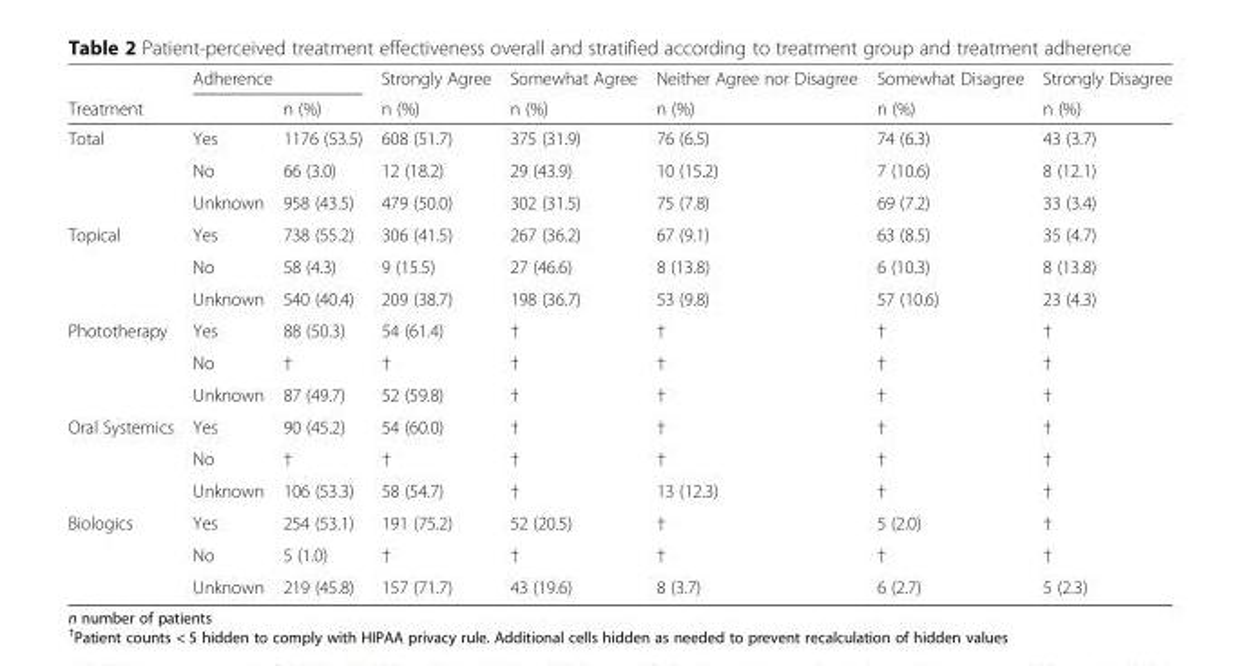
<table><thead><tr><td rowspan="2">Treatment</td><td colspan="2">Adherence</td><td rowspan="2">Strongly Agree n (%)</td><td rowspan="2">Somewhat Agree n (%)</td><td rowspan="2">Neither Agree nor Disagree n (%)</td><td rowspan="2">Somewhat Disagree n (%)</td><td rowspan="2">Strongly Disagree n (%)</td></tr><tr><td></td><td>n (%)</td></tr></thead><tbody><tr><td rowspan="3">Total</td><td>Yes</td><td>1176 (53.5)</td><td>608 (51.7)</td><td>375 (31.9)</td><td>76 (6.5)</td><td>74 (6.3)</td><td>43 (3.7)</td></tr><tr><td>No</td><td>66 (3.0)</td><td>12 (18.2)</td><td>29 (43.9)</td><td>10 (15.2)</td><td>7 (10.6)</td><td>8 (12.1)</td></tr><tr><td>Unknown</td><td>958 (43.5)</td><td>479 (50.0)</td><td>302 (31.5)</td><td>75 (7.8)</td><td>69 (7.2)</td><td>33 (3.4)</td></tr><tr><td rowspan="3">Topical</td><td>Yes</td><td>738 (55.2)</td><td>306 (41.5)</td><td>267 (36.2)</td><td>67 (9.1)</td><td>63 (8.5)</td><td>35 (4.7)</td></tr><tr><td>No</td><td>58 (4.3)</td><td>9 (15.5)</td><td>27 (46.6)</td><td>8 (13.8)</td><td>6 (10.3)</td><td>8 (13.8)</td></tr><tr><td>Unknown</td><td>540 (40.4)</td><td>209 (38.7)</td><td>198 (36.7)</td><td>53 (9.8)</td><td>57 (10.6)</td><td>23 (4.3)</td></tr><tr><td rowspan="3">Phototherapy</td><td>Yes</td><td>88 (50.3)</td><td>54 (61.4)</td><td>†</td><td>†</td><td>†</td><td>†</td></tr><tr><td>No</td><td>†</td><td>†</td><td>†</td><td>†</td><td>†</td><td>†</td></tr><tr><td>Unknown</td><td>87 (49.7)</td><td>52 (59.8)</td><td>†</td><td>†</td><td>†</td><td>†</td></tr><tr><td rowspan="3">Oral Systemics</td><td>Yes</td><td>90 (45.2)</td><td>54 (60.0)</td><td>†</td><td>†</td><td>†</td><td>†</td></tr><tr><td>No</td><td>†</td><td>†</td><td>†</td><td>†</td><td>†</td><td>†</td></tr><tr><td>Unknown</td><td>106 (53.3)</td><td>58 (54.7)</td><td>†</td><td>13 (12.3)</td><td>†</td><td>†</td></tr><tr><td rowspan="3">Biologics</td><td>Yes</td><td>254 (53.1)</td><td>191 (75.2)</td><td>52 (20.5)</td><td>†</td><td>5 (2.0)</td><td>†</td></tr><tr><td>No</td><td>5 (1.0)</td><td>†</td><td>†</td><td>†</td><td>†</td><td>†</td></tr><tr><td>Unknown</td><td>219 (45.8)</td><td>157 (71.7)</td><td>43 (19.6)</td><td>8 (3.7)</td><td>6 (2.7)</td><td>5 (2.3)</td></tr></tbody></table>